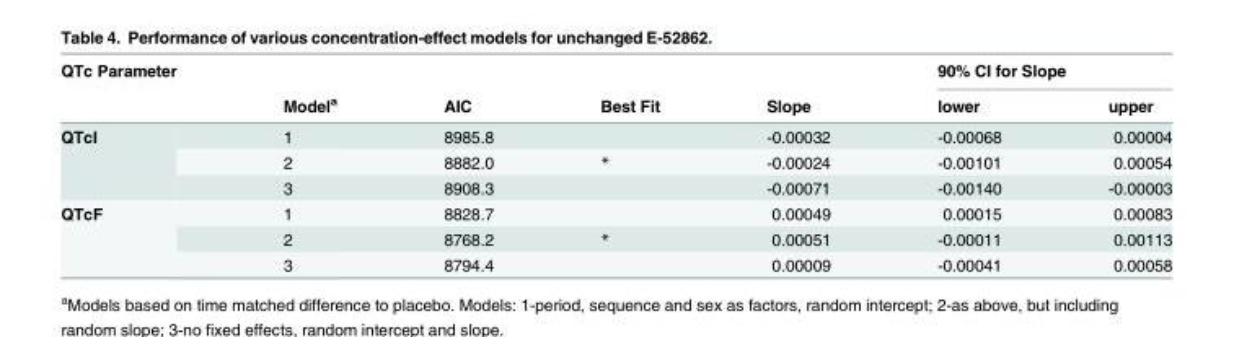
<table><thead><tr><td rowspan="2">QTc Parameter</td><td rowspan="2">Model<sup>a</sup></td><td rowspan="2">AIC</td><td rowspan="2">Best Fit</td><td rowspan="2">Slope</td><td colspan="2">90% CI for Slope</td></tr><tr><td>lower</td><td>upper</td></tr></thead><tbody><tr><td rowspan="3">QTcI</td><td>1</td><td>8985.8</td><td></td><td>-0.00032</td><td>-0.00068</td><td>0.00004</td></tr><tr><td>2</td><td>8882.0</td><td>*</td><td>-0.00024</td><td>-0.00101</td><td>0.00054</td></tr><tr><td>3</td><td>8908.3</td><td></td><td>-0.00071</td><td>-0.00140</td><td>-0.00003</td></tr><tr><td rowspan="3">QTcF</td><td>1</td><td>8828.7</td><td></td><td>0.00049</td><td>0.00015</td><td>0.00083</td></tr><tr><td>2</td><td>8768.2</td><td>*</td><td>0.00051</td><td>-0.00011</td><td>0.00113</td></tr><tr><td>3</td><td>8794.4</td><td></td><td>0.00009</td><td>-0.00041</td><td>0.00058</td></tr></tbody></table>